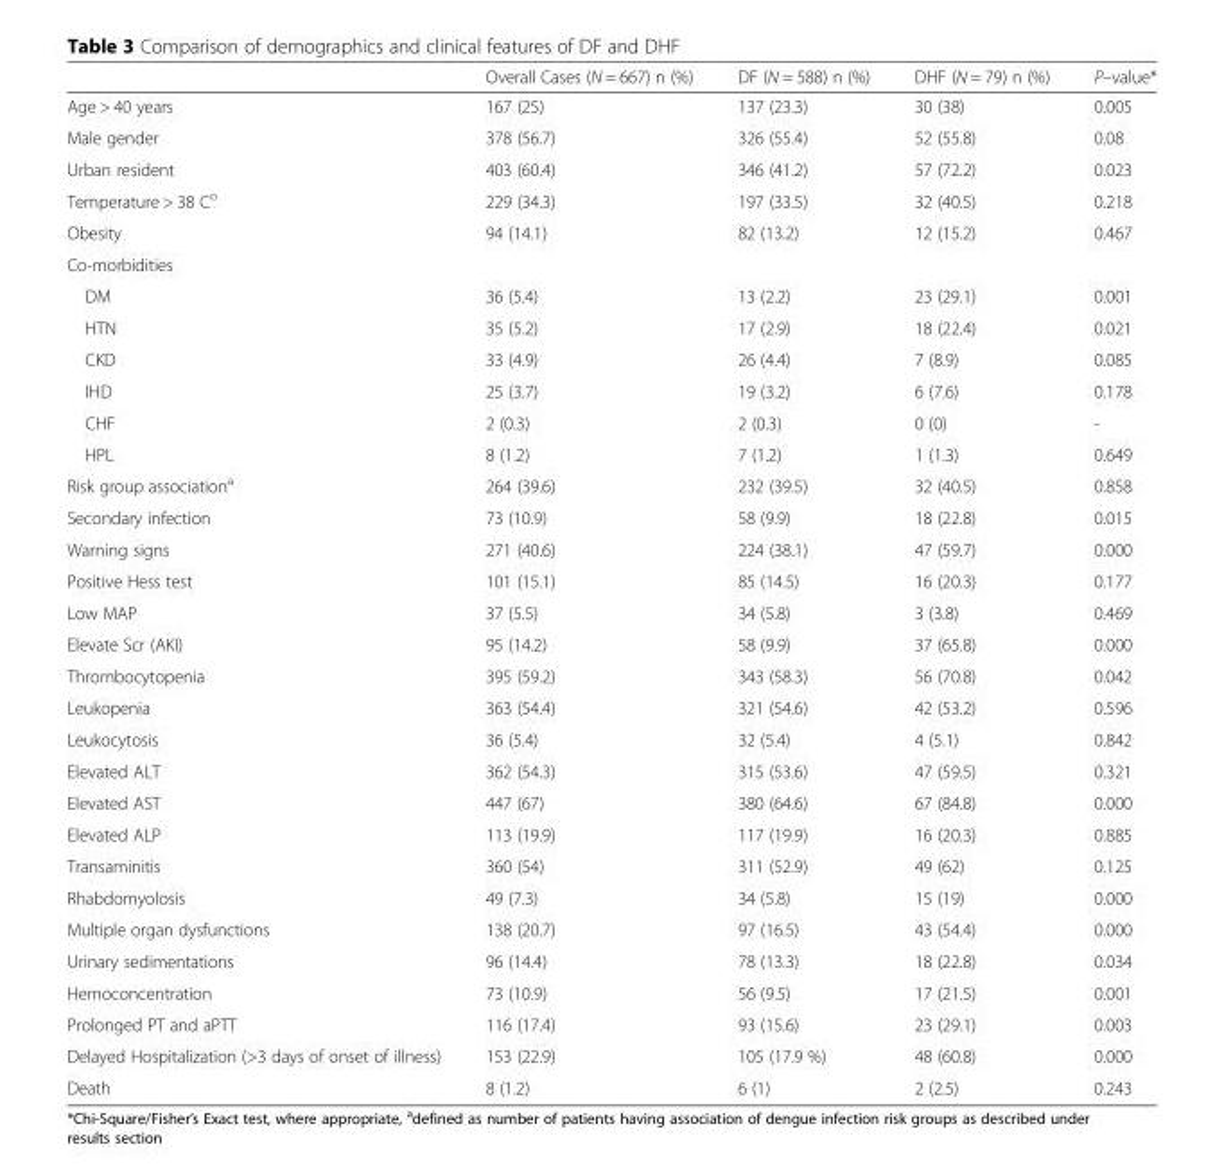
<table><thead><tr><td></td><td>Overall Cases (N = 667) n (%)</td><td>DF (N = 588) n (%)</td><td>DHF (N = 79) n (%)</td><td>P–value*</td></tr></thead><tbody><tr><td>Age &gt; 40 years</td><td>167 (25)</td><td>137 (23.3)</td><td>30 (38)</td><td>0.005</td></tr><tr><td>Male gender</td><td>378 (56.7)</td><td>326 (55.4)</td><td>52 (55.8)</td><td>0.08</td></tr><tr><td>Urban resident</td><td>403 (60.4)</td><td>346 (41.2)</td><td>57 (72.2)</td><td>0.023</td></tr><tr><td>Temperature &gt; 38 C<sup>o</sup></td><td>229 (34.3)</td><td>197 (33.5)</td><td>32 (40.5)</td><td>0.218</td></tr><tr><td>Obesity</td><td>94 (14.1)</td><td>82 (13.2)</td><td>12 (15.2)</td><td>0.467</td></tr><tr><td colspan="5">Co-morbidities</td></tr><tr><td>DM</td><td>36 (5.4)</td><td>13 (2.2)</td><td>23 (29.1)</td><td>0.001</td></tr><tr><td>HTN</td><td>35 (5.2)</td><td>17 (2.9)</td><td>18 (22.4)</td><td>0.021</td></tr><tr><td>CKD</td><td>33 (4.9)</td><td>26 (4.4)</td><td>7 (8.9)</td><td>0.085</td></tr><tr><td>IHD</td><td>25 (3.7)</td><td>19 (3.2)</td><td>6 (7.6)</td><td>0.178</td></tr><tr><td>CHF</td><td>2 (0.3)</td><td>2 (0.3)</td><td>0 (0)</td><td>-</td></tr><tr><td>HPL</td><td>8 (1.2)</td><td>7 (1.2)</td><td>1 (1.3)</td><td>0.649</td></tr><tr><td>Risk group association<sup>a</sup></td><td>264 (39.6)</td><td>232 (39.5)</td><td>32 (40.5)</td><td>0.858</td></tr><tr><td>Secondary infection</td><td>73 (10.9)</td><td>58 (9.9)</td><td>18 (22.8)</td><td>0.015</td></tr><tr><td>Warning signs</td><td>271 (40.6)</td><td>224 (38.1)</td><td>47 (59.7)</td><td>0.000</td></tr><tr><td>Positive Hess test</td><td>101 (15.1)</td><td>85 (14.5)</td><td>16 (20.3)</td><td>0.177</td></tr><tr><td>Low MAP</td><td>37 (5.5)</td><td>34 (5.8)</td><td>3 (3.8)</td><td>0.469</td></tr><tr><td>Elevate Scr (AKI)</td><td>95 (14.2)</td><td>58 (9.9)</td><td>37 (65.8)</td><td>0.000</td></tr><tr><td>Thrombocytopenia</td><td>395 (59.2)</td><td>343 (58.3)</td><td>56 (70.8)</td><td>0.042</td></tr><tr><td>Leukopenia</td><td>363 (54.4)</td><td>321 (54.6)</td><td>42 (53.2)</td><td>0.596</td></tr><tr><td>Leukocytosis</td><td>36 (5.4)</td><td>32 (5.4)</td><td>4 (5.1)</td><td>0.842</td></tr><tr><td>Elevated ALT</td><td>362 (54.3)</td><td>315 (53.6)</td><td>47 (59.5)</td><td>0.321</td></tr><tr><td>Elevated AST</td><td>447 (67)</td><td>380 (64.6)</td><td>67 (84.8)</td><td>0.000</td></tr><tr><td>Elevated ALP</td><td>113 (19.9)</td><td>117 (19.9)</td><td>16 (20.3)</td><td>0.885</td></tr><tr><td>Transaminitis</td><td>360 (54)</td><td>311 (52.9)</td><td>49 (62)</td><td>0.125</td></tr><tr><td>Rhabdomyolosis</td><td>49 (7.3)</td><td>34 (5.8)</td><td>15 (19)</td><td>0.000</td></tr><tr><td>Multiple organ dysfunctions</td><td>138 (20.7)</td><td>97 (16.5)</td><td>43 (54.4)</td><td>0.000</td></tr><tr><td>Urinary sedimentations</td><td>96 (14.4)</td><td>78 (13.3)</td><td>18 (22.8)</td><td>0.034</td></tr><tr><td>Hemoconcentration</td><td>73 (10.9)</td><td>56 (9.5)</td><td>17 (21.5)</td><td>0.001</td></tr><tr><td>Prolonged PT and aPTT</td><td>116 (17.4)</td><td>93 (15.6)</td><td>23 (29.1)</td><td>0.003</td></tr><tr><td>Delayed Hospitalization (&gt;3 days of onset of illness)</td><td>153 (22.9)</td><td>105 (17.9 %)</td><td>48 (60.8)</td><td>0.000</td></tr><tr><td>Death</td><td>8 (1.2)</td><td>6 (1)</td><td>2 (2.5)</td><td>0.243</td></tr></tbody></table>